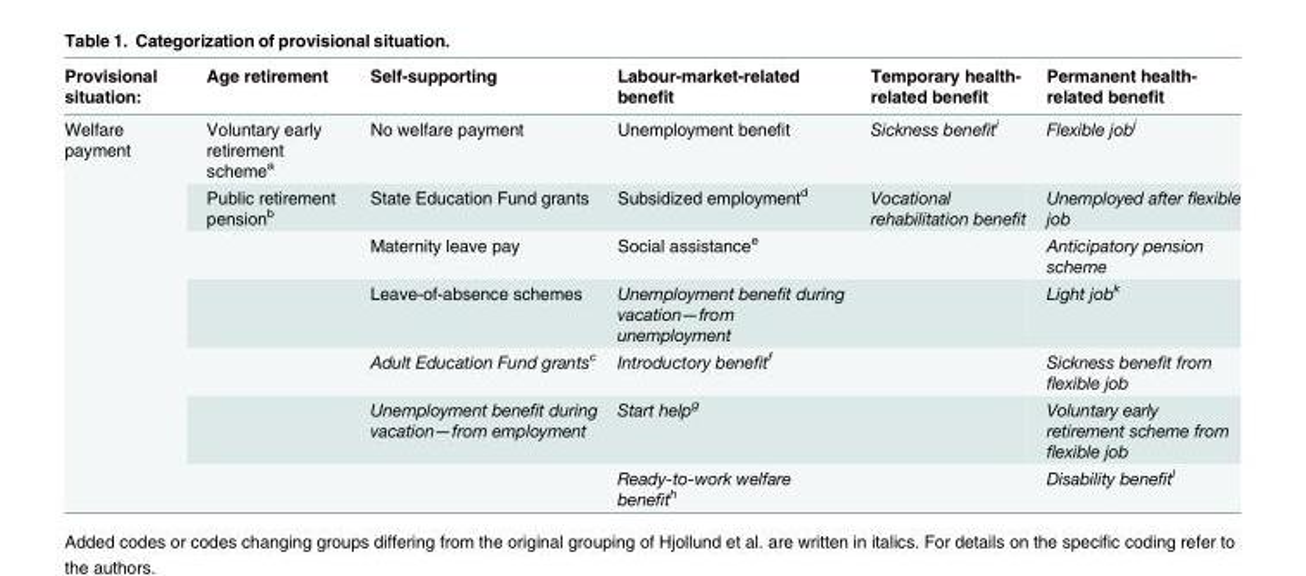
<table><thead><tr><td>Provisional situation:</td><td>Age retirement</td><td>Self-supporting</td><td>Labour-market-related benefit</td><td>Temporary health- related benefit</td><td>Permanent health- related benefit</td></tr></thead><tbody><tr><td rowspan="7">Welfare payment</td><td>Voluntary early retirement scheme<sup>a</sup></td><td>No welfare payment</td><td>Unemployment benefit</td><td>Sickness benefit<sup>i</sup></td><td>Flexible job<sup>j</sup></td></tr><tr><td>Public retirement pension<sup>b</sup></td><td>State Education Fund grants</td><td>Subsidized employment<sup>d</sup></td><td>Vocational rehabilitation benefit</td><td>Unemployed after flexible job</td></tr><tr><td></td><td>Maternity leave pay</td><td>Social assistance<sup>e</sup></td><td></td><td>Anticipatory pension scheme</td></tr><tr><td></td><td>Leave-of-absence schemes</td><td>Unemployment benefit during vacation—from unemployment</td><td></td><td>Light job<sup>k</sup></td></tr><tr><td></td><td>Adult Education Fund grants<sup>c</sup></td><td>Introductory benefit<sup>f</sup></td><td></td><td>Sickness benefit from flexible job</td></tr><tr><td></td><td>Unemployment benefit during vacation—from employment</td><td>Start help<sup>g</sup></td><td></td><td>Voluntary early retirement scheme from flexible job</td></tr><tr><td></td><td></td><td>Ready-to-work welfare benefit<sup>h</sup></td><td></td><td>Disability benefit<sup>l</sup></td></tr></tbody></table>